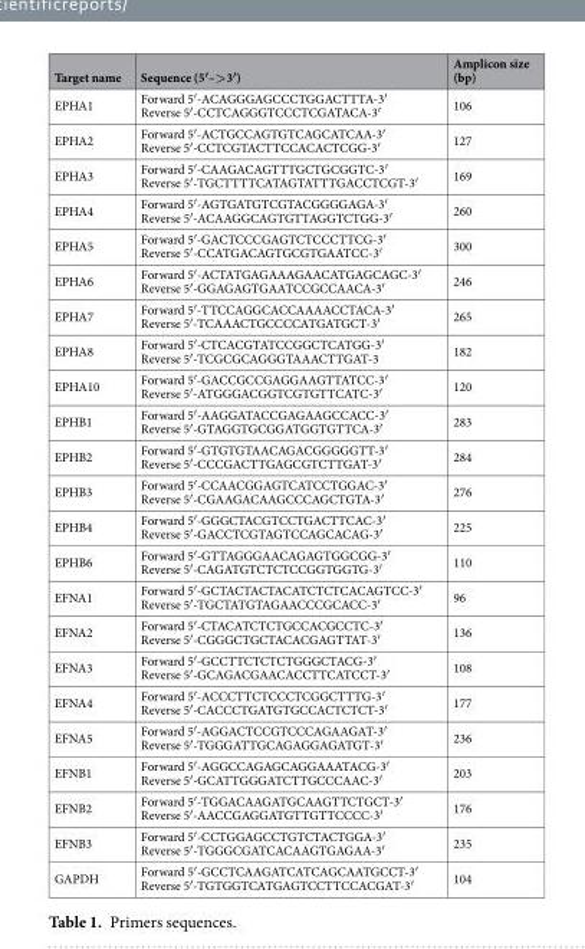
<table><thead><tr><td>Target name</td><td>Sequence (5′–&gt;3′)</td><td>Amplicon size (bp)</td></tr></thead><tbody><tr><td>EPHA1</td><td>Forward 5′-ACAGGGAGCCCTGGACTTTA-3′ Reverse 5′-CCTCAGGGTCCCTCGATACA-3′</td><td>106</td></tr><tr><td>EPHA2</td><td>Forward 5′-ACTGCCAGTGTCAGCATCAA-3′ Reverse 5′-CCTCGTACTTCCACACTCGG-3′</td><td>127</td></tr><tr><td>EPHA3</td><td>Forward 5′-CAAGACAGTTTGCTGCGGTC-3′ Reverse 5′-TGCTTTTCATAGTATTTGACCTCGT-3′</td><td>169</td></tr><tr><td>EPHA4</td><td>Forward 5′-AGTGATGTCGTACGGGGAGA-3′ Reverse 5′-ACAAGGCAGTGTTAGGTCTGG-3′</td><td>260</td></tr><tr><td>EPHA5</td><td>Forward 5′-GACTCCCGAGTCTCCCTTCG-3′ Reverse 5′-CCATGACAGTGCGTGAATCC-3′</td><td>300</td></tr><tr><td>EPHA6</td><td>Forward 5′-ACTATGAGAAAGAACATGAGCAGC-3′ Reverse 5′-GGAGAGTGAATCCGCCAACA-3′</td><td>246</td></tr><tr><td>EPHA7</td><td>Forward 5′-TTCCAGGCACCAAAACCTACA-3′ Reverse 5′-TCAAACTGCCCCATGATGCT-3′</td><td>265</td></tr><tr><td>EPHA8</td><td>Forward 5′-CTCACGTATCCGGCTCATGG-3′ Reverse 5′-TCGCGCAGGGTAAACTTGAT-3</td><td>182</td></tr><tr><td>EPHA10</td><td>Forward 5′-GACCGCCGAGGAAGTTATCC-3′ Reverse 5′-ATGGGACGGTCGTGTTCATC-3′</td><td>120</td></tr><tr><td>EPHB1</td><td>Forward 5′-AAGGATACCGAGAAGCCACC-3′ Reverse 5′-GTAGGTGCGGATGGTGTTCA-3′</td><td>283</td></tr><tr><td>EPHB2</td><td>Forward 5′-GTGTGTAACAGACGGGGGTT-3′ Reverse 5′-CCCGACTTGAGCGTCTTGAT-3′</td><td>284</td></tr><tr><td>EPHB3</td><td>Forward 5′-CCAACGGAGTCATCCTGGAC-3′ Reverse 5′-CGAAGACAAGCCCAGCTGTA-3′</td><td>276</td></tr><tr><td>EPHB4</td><td>Forward 5′-GGGCTACGTCCTGACTTCAC-3′ Reverse 5′-GACCTCGTAGTCCAGCACAG-3′</td><td>225</td></tr><tr><td>EPHB6</td><td>Forward 5′-GTTAGGGAACAGAGTGGCGG-3′ Reverse 5′-CAGATGTCTCTCCGGTGGTG-3′</td><td>110</td></tr><tr><td>EFNA1</td><td>Forward 5′-GCTACTACTACATCTCTCACAGTCC-3′ Reverse 5′-TGCTATGTAGAACCCGCACC-3′</td><td>96</td></tr><tr><td>EFNA2</td><td>Forward 5′-CTACATCTCTGCCACGCCTC-3′ Reverse 5′-CGGGCTGCTACACGAGTTAT-3′</td><td>136</td></tr><tr><td>EFNA3</td><td>Forward 5′-GCCTTCTCTCTGGGCTACG-3′ Reverse 5′-GCAGACGAACACCTTCATCCT-3′</td><td>108</td></tr><tr><td>EFNA4</td><td>Forward 5′-ACCCTTCTCCCTCGGCTTTG-3′ Reverse 5′-CACCCTGATGTGCCACTCTCT-3′</td><td>177</td></tr><tr><td>EFNA5</td><td>Forward 5′-AGGACTCCGTCCCAGAAGAT-3′ Reverse 5′-TGGGATTGCAGAGGAGATGT-3′</td><td>236</td></tr><tr><td>EFNB1</td><td>Forward 5′-AGGCCAGAGCAGGAAATACG-3′ Reverse 5′-GCATTGGGATCTTGCCCAAC-3′</td><td>203</td></tr><tr><td>EFNB2</td><td>Forward 5′-TGGACAAGATGCAAGTTCTGCT-3′ Reverse 5′-AACCGAGGATGTTGTTCCCC-3′</td><td>176</td></tr><tr><td>EFNB3</td><td>Forward 5′-CCTGGAGCCTGTCTACTGGA-3′ Reverse 5′-TGGGCGATCACAAGTGAGAA-3′</td><td>235</td></tr><tr><td>GAPDH</td><td>Forward 5′-GCCTCAAGATCATCAGCAATGCCT-3′ Reverse 5′-TGTGGTCATGAGTCCTTCCACGAT-3′</td><td>104</td></tr></tbody></table>